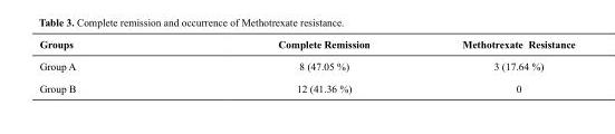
<table><thead><tr><td>Groups</td><td>Complete Remission</td><td>Methotrexate Resistance</td></tr></thead><tbody><tr><td>Group A</td><td>8 (47.05 %)</td><td>3 (17.64 %)</td></tr><tr><td>Group B</td><td>12 (41.36 %)</td><td>0</td></tr></tbody></table>